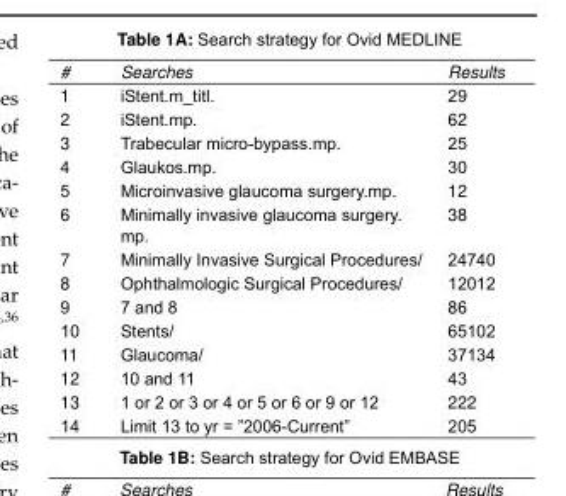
<table><tbody><tr><td>#</td><td>Searches</td><td>Results</td></tr><tr><td>1</td><td>iStent.m_titl.</td><td>29</td></tr><tr><td>2</td><td>iStent.mp.</td><td>62</td></tr><tr><td>3</td><td>Trabecular micro-bypass.mp.</td><td>25</td></tr><tr><td>4</td><td>Glaukos.mp.</td><td>30</td></tr><tr><td>5</td><td>Microinvasive glaucoma surgery.mp.</td><td>12</td></tr><tr><td>6</td><td>Minimally invasive glaucoma surgery. mp.</td><td>38</td></tr><tr><td>7</td><td>Minimally Invasive Surgical Procedures/</td><td>24740</td></tr><tr><td>8</td><td>Ophthalmologic Surgical Procedures/</td><td>12012</td></tr><tr><td>9</td><td>7 and 8</td><td>86</td></tr><tr><td>10</td><td>Stents/</td><td>65102</td></tr><tr><td>11</td><td>Glaucoma/</td><td>37134</td></tr><tr><td>12</td><td>10 and 11</td><td>43</td></tr><tr><td>13</td><td>1 or 2 or 3 or 4 or 5 or 6 or 9 or 12</td><td>222</td></tr><tr><td>14</td><td>Limit 13 to yr = ”2006-Current”</td><td>205</td></tr></tbody></table>